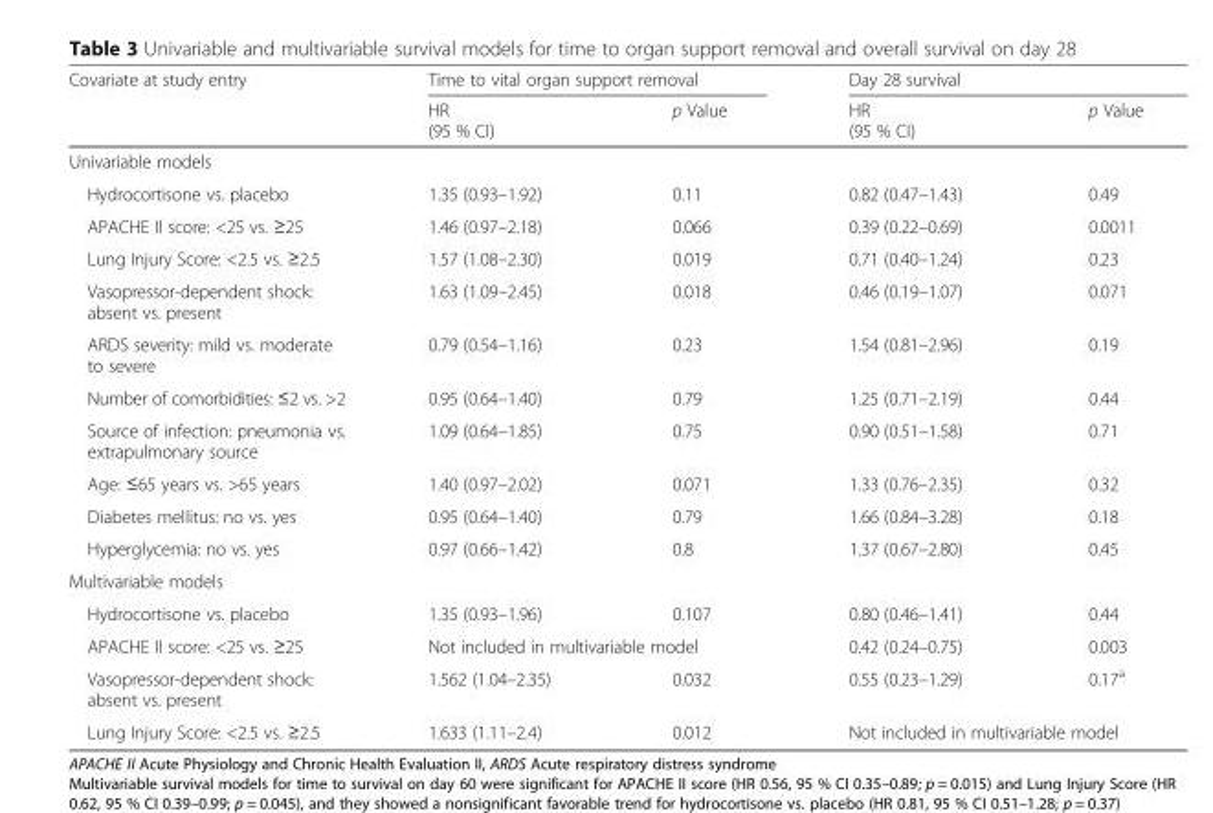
<table><thead><tr><td rowspan="2">Covariate at study entry</td><td colspan="2">Time to vital organ support removal</td><td colspan="2">Day 28 survival</td></tr><tr><td>HR (95 % CI)</td><td>p Value</td><td>HR (95 % CI)</td><td>p Value</td></tr></thead><tbody><tr><td colspan="5">Univariable models</td></tr><tr><td>Hydrocortisone vs. placebo</td><td>1.35 (0.93–1.92)</td><td>0.11</td><td>0.82 (0.47–1.43)</td><td>0.49</td></tr><tr><td>APACHE II score: &lt;25 vs. ≥25</td><td>1.46 (0.97–2.18)</td><td>0.066</td><td>0.39 (0.22–0.69)</td><td>0.0011</td></tr><tr><td>Lung Injury Score: &lt;2.5 vs. ≥2.5</td><td>1.57 (1.08–2.30)</td><td>0.019</td><td>0.71 (0.40–1.24)</td><td>0.23</td></tr><tr><td>Vasopressor-dependent shock: absent vs. present</td><td>1.63 (1.09–2.45)</td><td>0.018</td><td>0.46 (0.19–1.07)</td><td>0.071</td></tr><tr><td>ARDS severity: mild vs. moderate to severe</td><td>0.79 (0.54–1.16)</td><td>0.23</td><td>1.54 (0.81–2.96)</td><td>0.19</td></tr><tr><td>Number of comorbidities: ≤2 vs. &gt;2</td><td>0.95 (0.64–1.40)</td><td>0.79</td><td>1.25 (0.71–2.19)</td><td>0.44</td></tr><tr><td>Source of infection: pneumonia vs. extrapulmonary source</td><td>1.09 (0.64–1.85)</td><td>0.75</td><td>0.90 (0.51–1.58)</td><td>0.71</td></tr><tr><td>Age: ≤65 years vs. &gt;65 years</td><td>1.40 (0.97–2.02)</td><td>0.071</td><td>1.33 (0.76–2.35)</td><td>0.32</td></tr><tr><td>Diabetes mellitus: no vs. yes</td><td>0.95 (0.64–1.40)</td><td>0.79</td><td>1.66 (0.84–3.28)</td><td>0.18</td></tr><tr><td>Hyperglycemia: no vs. yes</td><td>0.97 (0.66–1.42)</td><td>0.8</td><td>1.37 (0.67–2.80)</td><td>0.45</td></tr><tr><td colspan="5">Multivariable models</td></tr><tr><td>Hydrocortisone vs. placebo</td><td>1.35 (0.93–1.96)</td><td>0.107</td><td>0.80 (0.46–1.41)</td><td>0.44</td></tr><tr><td>APACHE II score: &lt;25 vs. ≥25</td><td colspan="2">Not included in multivariable model</td><td>0.42 (0.24–0.75)</td><td>0.003</td></tr><tr><td>Vasopressor-dependent shock: absent vs. present</td><td>1.562 (1.04–2.35)</td><td>0.032</td><td>0.55 (0.23–1.29)</td><td>0.17<sup>a</sup></td></tr><tr><td>Lung Injury Score: &lt;2.5 vs. ≥2.5</td><td>1.633 (1.11–2.4)</td><td>0.012</td><td colspan="2">Not included in multivariable model</td></tr></tbody></table>